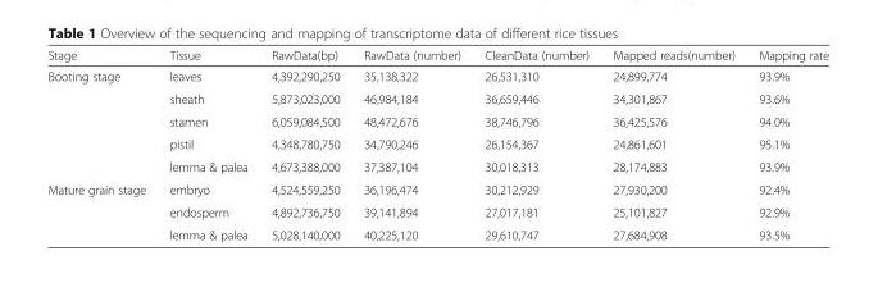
<table><thead><tr><td>Stage</td><td>Tissue</td><td>RawData(bp)</td><td>RawData (number)</td><td>CleanData (number)</td><td>Mapped reads(number)</td><td>Mapping rate</td></tr></thead><tbody><tr><td rowspan="5">Booting stage</td><td>leaves</td><td>4,392,290,250</td><td>35,138,322</td><td>26,531,310</td><td>24,899,774</td><td>93.9%</td></tr><tr><td>sheath</td><td>5,873,023,000</td><td>46,984,184</td><td>36,659,446</td><td>34,301,867</td><td>93.6%</td></tr><tr><td>stamen</td><td>6,059,084,500</td><td>48,472,676</td><td>38,746,796</td><td>36,425,576</td><td>94.0%</td></tr><tr><td>pistil</td><td>4,348,780,750</td><td>34,790,246</td><td>26,154,367</td><td>24,861,601</td><td>95.1%</td></tr><tr><td>lemma &amp; palea</td><td>4,673,388,000</td><td>37,387,104</td><td>30,018,313</td><td>28,174,883</td><td>93.9%</td></tr><tr><td rowspan="3">Mature grain stage</td><td>embryo</td><td>4,524,559,250</td><td>36,196,474</td><td>30,212,929</td><td>27,930,200</td><td>92.4%</td></tr><tr><td>endosperm</td><td>4,892,736,750</td><td>39,141,894</td><td>27,017,181</td><td>25,101,827</td><td>92.9%</td></tr><tr><td>lemma &amp; palea</td><td>5,028,140,000</td><td>40,225,120</td><td>29,610,747</td><td>27,684,908</td><td>93.5%</td></tr></tbody></table>